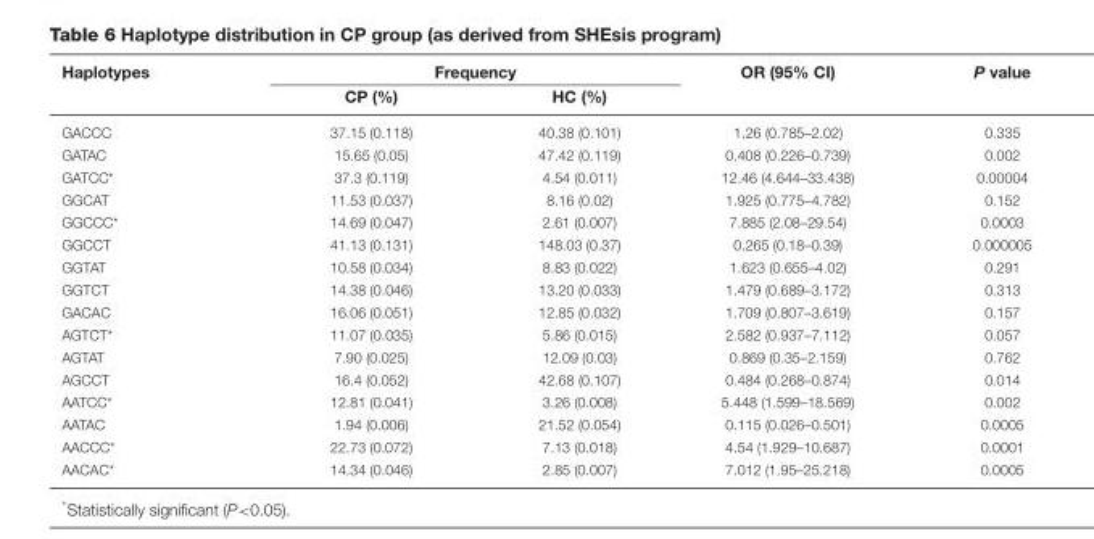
<table><thead><tr><td rowspan="2">Haplotypes</td><td colspan="2">Frequency</td><td rowspan="2">OR (95% CI)</td><td rowspan="2">P value</td></tr><tr><td>CP (%)</td><td>HC (%)</td></tr></thead><tbody><tr><td>GACCC</td><td>37.15 (0.118)</td><td>40.38 (0.101)</td><td>1.26 (0.785–2.02)</td><td>0.335</td></tr><tr><td>GATAC</td><td>15.65 (0.05)</td><td>47.42 (0.119)</td><td>0.408 (0.226–0.739)</td><td>0.002</td></tr><tr><td>GATCC*</td><td>37.3 (0.119)</td><td>4.54 (0.011)</td><td>12.46 (4.644–33.438)</td><td>0.00004</td></tr><tr><td>GGCAT</td><td>11.53 (0.037)</td><td>8.16 (0.02)</td><td>1.925 (0.775–4.782)</td><td>0.152</td></tr><tr><td>GGCCC*</td><td>14.69 (0.047)</td><td>2.61 (0.007)</td><td>7.885 (2.08–29.54)</td><td>0.0003</td></tr><tr><td>GGCCT</td><td>41.13 (0.131)</td><td>148.03 (0.37)</td><td>0.265 (0.18–0.39)</td><td>0.000005</td></tr><tr><td>GGTAT</td><td>10.58 (0.034)</td><td>8.83 (0.022)</td><td>1.623 (0.655–4.02)</td><td>0.291</td></tr><tr><td>GGTCT</td><td>14.38 (0.046)</td><td>13.20 (0.033)</td><td>1.479 (0.689–3.172)</td><td>0.313</td></tr><tr><td>GACAC</td><td>16.06 (0.051)</td><td>12.85 (0.032)</td><td>1.709 (0.807–3.619)</td><td>0.157</td></tr><tr><td>AGTCT*</td><td>11.07 (0.035)</td><td>5.86 (0.015)</td><td>2.582 (0.937–7.112)</td><td>0.057</td></tr><tr><td>AGTAT</td><td>7.90 (0.025)</td><td>12.09 (0.03)</td><td>0.869 (0.35–2.159)</td><td>0.762</td></tr><tr><td>AGCCT</td><td>16.4 (0.052)</td><td>42.68 (0.107)</td><td>0.484 (0.268–0.874)</td><td>0.014</td></tr><tr><td>AATCC*</td><td>12.81 (0.041)</td><td>3.26 (0.008)</td><td>5.448 (1.599–18.569)</td><td>0.002</td></tr><tr><td>AATAC</td><td>1.94 (0.006)</td><td>21.52 (0.054)</td><td>0.115 (0.026–0.501)</td><td>0.0005</td></tr><tr><td>AACCC*</td><td>22.73 (0.072)</td><td>7.13 (0.018)</td><td>4.54 (1.929–10.687)</td><td>0.0001</td></tr><tr><td>AACAC*</td><td>14.34 (0.046)</td><td>2.85 (0.007)</td><td>7.012 (1.95–25.218)</td><td>0.0005</td></tr></tbody></table>